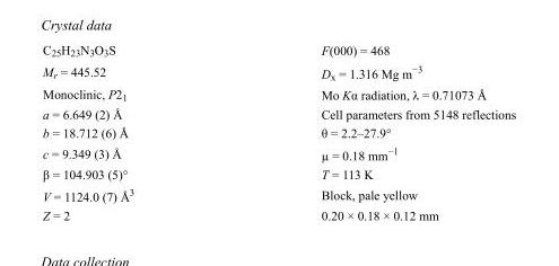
<table><tbody><tr><td>C<sub>25</sub>H<sub>23</sub>N<sub>3</sub>O<sub>3</sub>S</td><td>F(000) = 468</td></tr><tr><td>M<sub>r</sub> = 445.52</td><td>D<sub>x</sub> = 1.316 Mg m<sup>−3</sup></td></tr><tr><td>Monoclinic, P2<sub>1</sub></td><td>Mo Kα radiation, λ = 0.71073 Å</td></tr><tr><td>a = 6.649 (2) Å</td><td>Cell parameters from 5148 reflections</td></tr><tr><td>b = 18.712 (6) Å</td><td>θ = 2.2–27.9°</td></tr><tr><td>c = 9.349 (3) Å</td><td>µ = 0.18 mm<sup>−1</sup></td></tr><tr><td>β = 104.903 (5)°</td><td>T = 113 K</td></tr><tr><td>V = 1124.0 (7) Å<sup>3</sup></td><td>Block, pale yellow</td></tr><tr><td>Z = 2</td><td>0.20 × 0.18 × 0.12 mm</td></tr></tbody></table>